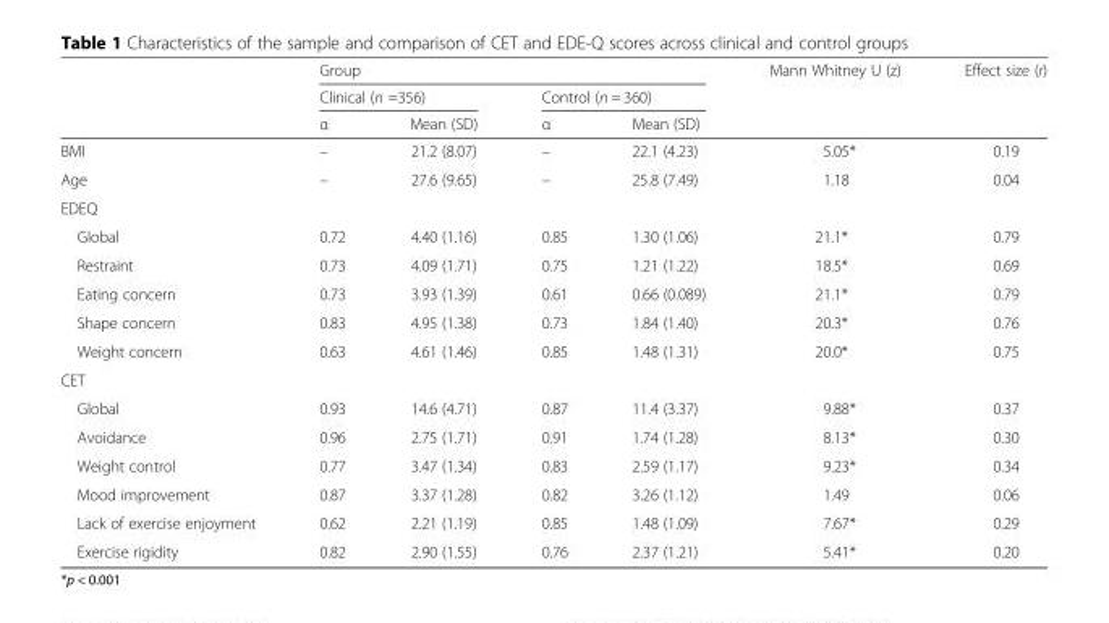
<table><thead><tr><td rowspan="3"></td><td colspan="4">Group</td><td rowspan="3">Mann Whitney U (z)</td><td rowspan="3">Effect size (r)</td></tr><tr><td colspan="2">Clinical (n =356)</td><td colspan="2">Control (n = 360)</td></tr><tr><td>α</td><td>Mean (SD)</td><td>α</td><td>Mean (SD)</td></tr></thead><tbody><tr><td>BMI</td><td>–</td><td>21.2 (8.07)</td><td>–</td><td>22.1 (4.23)</td><td>5.05*</td><td>0.19</td></tr><tr><td>Age</td><td>–</td><td>27.6 (9.65)</td><td>–</td><td>25.8 (7.49)</td><td>1.18</td><td>0.04</td></tr><tr><td colspan="7">EDEQ</td></tr><tr><td>Global</td><td>0.72</td><td>4.40 (1.16)</td><td>0.85</td><td>1.30 (1.06)</td><td>21.1*</td><td>0.79</td></tr><tr><td>Restraint</td><td>0.73</td><td>4.09 (1.71)</td><td>0.75</td><td>1.21 (1.22)</td><td>18.5*</td><td>0.69</td></tr><tr><td>Eating concern</td><td>0.73</td><td>3.93 (1.39)</td><td>0.61</td><td>0.66 (0.089)</td><td>21.1*</td><td>0.79</td></tr><tr><td>Shape concern</td><td>0.83</td><td>4.95 (1.38)</td><td>0.73</td><td>1.84 (1.40)</td><td>20.3*</td><td>0.76</td></tr><tr><td>Weight concern</td><td>0.63</td><td>4.61 (1.46)</td><td>0.85</td><td>1.48 (1.31)</td><td>20.0*</td><td>0.75</td></tr><tr><td colspan="7">CET</td></tr><tr><td>Global</td><td>0.93</td><td>14.6 (4.71)</td><td>0.87</td><td>11.4 (3.37)</td><td>9.88*</td><td>0.37</td></tr><tr><td>Avoidance</td><td>0.96</td><td>2.75 (1.71)</td><td>0.91</td><td>1.74 (1.28)</td><td>8.13*</td><td>0.30</td></tr><tr><td>Weight control</td><td>0.77</td><td>3.47 (1.34)</td><td>0.83</td><td>2.59 (1.17)</td><td>9.23*</td><td>0.34</td></tr><tr><td>Mood improvement</td><td>0.87</td><td>3.37 (1.28)</td><td>0.82</td><td>3.26 (1.12)</td><td>1.49</td><td>0.06</td></tr><tr><td>Lack of exercise enjoyment</td><td>0.62</td><td>2.21 (1.19)</td><td>0.85</td><td>1.48 (1.09)</td><td>7.67*</td><td>0.29</td></tr><tr><td>Exercise rigidity</td><td>0.82</td><td>2.90 (1.55)</td><td>0.76</td><td>2.37 (1.21)</td><td>5.41*</td><td>0.20</td></tr></tbody></table>